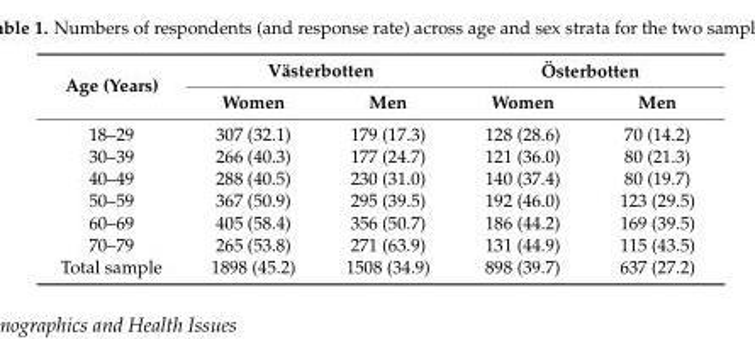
<table><thead><tr><td rowspan="2">Age (Years)</td><td colspan="2">Västerbotten</td><td colspan="2">Österbotten</td></tr><tr><td>Women</td><td>Men</td><td>Women</td><td>Men</td></tr></thead><tbody><tr><td>18–29</td><td>307 (32.1)</td><td>179 (17.3)</td><td>128 (28.6)</td><td>70 (14.2)</td></tr><tr><td>30–39</td><td>266 (40.3)</td><td>177 (24.7)</td><td>121 (36.0)</td><td>80 (21.3)</td></tr><tr><td>40–49</td><td>288 (40.5)</td><td>230 (31.0)</td><td>140 (37.4)</td><td>80 (19.7)</td></tr><tr><td>50–59</td><td>367 (50.9)</td><td>295 (39.5)</td><td>192 (46.0)</td><td>123 (29.5)</td></tr><tr><td>60–69</td><td>405 (58.4)</td><td>356 (50.7)</td><td>186 (44.2)</td><td>169 (39.5)</td></tr><tr><td>70–79</td><td>265 (53.8)</td><td>271 (63.9)</td><td>131 (44.9)</td><td>115 (43.5)</td></tr><tr><td>Total sample</td><td>1898 (45.2)</td><td>1508 (34.9)</td><td>898 (39.7)</td><td>637 (27.2)</td></tr></tbody></table>